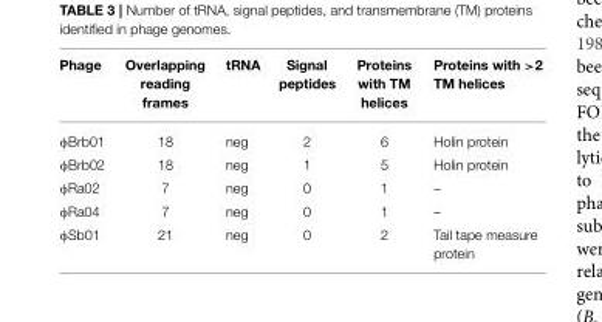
<table><thead><tr><td>Phage</td><td>Overlapping reading frames</td><td>tRNA</td><td>Signal peptides</td><td>Proteins with TM helices</td><td>Proteins with &gt;2 TM helices</td></tr></thead><tbody><tr><td>φBrb01</td><td>18</td><td>neg</td><td>2</td><td>6</td><td>Holin protein</td></tr><tr><td>φBrb02</td><td>18</td><td>neg</td><td>1</td><td>5</td><td>Holin protein</td></tr><tr><td>φRa02</td><td>7</td><td>neg</td><td>0</td><td>1</td><td>–</td></tr><tr><td>φRa04</td><td>7</td><td>neg</td><td>0</td><td>1</td><td>–</td></tr><tr><td>φSb01</td><td>21</td><td>neg</td><td>0</td><td>2</td><td>Tail tape measure protein</td></tr></tbody></table>